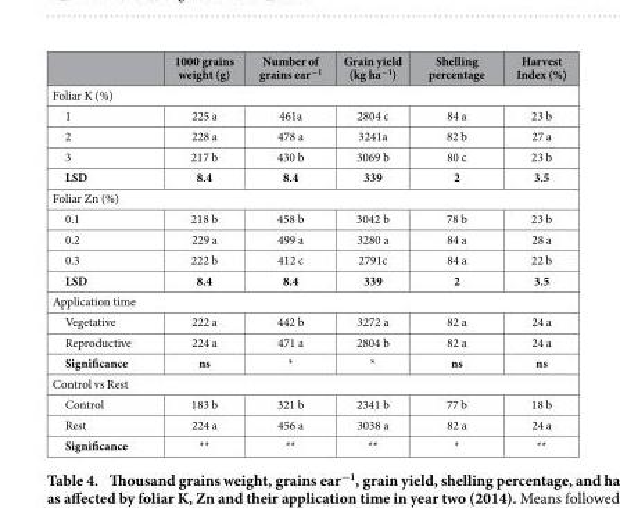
<table><thead><tr><td></td><td>1000 grains weight (g)</td><td>Number of grains ear<sup>−1</sup></td><td>Grain yield (kg ha<sup>−1</sup>)</td><td>Shelling percentage</td><td>Harvest Index (%)</td></tr></thead><tbody><tr><td colspan="6">Foliar K (%)</td></tr><tr><td>1</td><td>225 a</td><td>461a</td><td>2804 c</td><td>84 a</td><td>23 b</td></tr><tr><td>2</td><td>228 a</td><td>478 a</td><td>3241a</td><td>82 b</td><td>27 a</td></tr><tr><td>3</td><td>217 b</td><td>430 b</td><td>3069 b</td><td>80 c</td><td>23 b</td></tr><tr><td>LSD</td><td>8.4</td><td>8.4</td><td>339</td><td>2</td><td>3.5</td></tr><tr><td colspan="6">Foliar Zn (%)</td></tr><tr><td>0.1</td><td>218 b</td><td>458 b</td><td>3042 b</td><td>78 b</td><td>23 b</td></tr><tr><td>0.2</td><td>229 a</td><td>499 a</td><td>3280 a</td><td>84 a</td><td>28 a</td></tr><tr><td>0.3</td><td>222 b</td><td>412 c</td><td>2791c</td><td>84 a</td><td>22 b</td></tr><tr><td>LSD</td><td>8.4</td><td>8.4</td><td>339</td><td>2</td><td>3.5</td></tr><tr><td colspan="6">Application time</td></tr><tr><td>Vegetative</td><td>222 a</td><td>442 b</td><td>3272 a</td><td>82 a</td><td>24 a</td></tr><tr><td>Reproductive</td><td>224 a</td><td>471 a</td><td>2804 b</td><td>82 a</td><td>24 a</td></tr><tr><td>Significance</td><td>ns</td><td>*</td><td>*</td><td>ns</td><td>ns</td></tr><tr><td colspan="6">Control vs Rest</td></tr><tr><td>Control</td><td>183 b</td><td>321 b</td><td>2341 b</td><td>77 b</td><td>18 b</td></tr><tr><td>Rest</td><td>224 a</td><td>456 a</td><td>3038 a</td><td>82 a</td><td>24 a</td></tr><tr><td>Significance</td><td>**</td><td>**</td><td>**</td><td>*</td><td>**</td></tr></tbody></table>